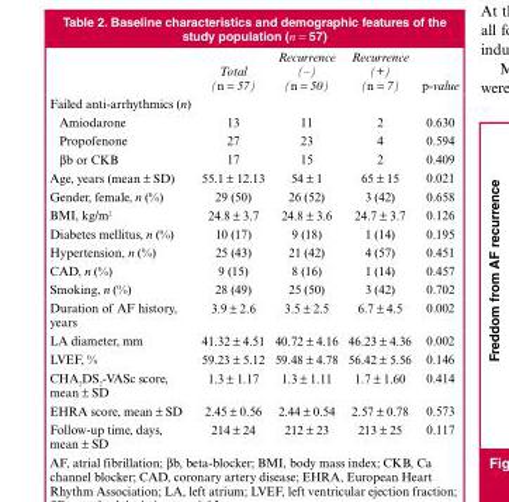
<table><thead><tr><td></td><td>Total (n = 57)</td><td>Recurrence (–) (n = 50)</td><td>Recurrence (+) (n = 7)</td><td>p-value</td></tr></thead><tbody><tr><td colspan="5">Failed anti-arrhythmics (n)</td></tr><tr><td>Amiodarone</td><td>13</td><td>11</td><td>2</td><td>0.630</td></tr><tr><td>Propofenone</td><td>27</td><td>23</td><td>4</td><td>0.594</td></tr><tr><td>βb or CKB</td><td>17</td><td>15</td><td>2</td><td>0.409</td></tr><tr><td>Age, years (mean ± SD)</td><td>55.1 ± 12.13</td><td>54 ± 1</td><td>65 ± 15</td><td>0.021</td></tr><tr><td>Gender, female, n (%)</td><td>29 (50)</td><td>26 (52)</td><td>3 (42)</td><td>0.658</td></tr><tr><td>BMI, kg/m<sup>2</sup></td><td>24.8 ± 3.7</td><td>24.8 ± 3.6</td><td>24.7 ± 3.7</td><td>0.126</td></tr><tr><td>Diabetes mellitus, n (%)</td><td>10 (17)</td><td>9 (18)</td><td>1 (14)</td><td>0.195</td></tr><tr><td>Hypertension, n (%)</td><td>25 (43)</td><td>21 (42)</td><td>4 (57)</td><td>0.451</td></tr><tr><td>CAD, n (%)</td><td>9 (15)</td><td>8 (16)</td><td>1 (14)</td><td>0.457</td></tr><tr><td>Smoking, n (%)</td><td>28 (49)</td><td>25 (50)</td><td>3 (42)</td><td>0.702</td></tr><tr><td>Duration of AF history, years</td><td>3.9 ± 2.6</td><td>3.5 ± 2.5</td><td>6.7 ± 4.5</td><td>0.002</td></tr><tr><td>LA diameter, mm</td><td>41.32 ± 4.51</td><td>40.72 ± 4.16</td><td>46.23 ± 4.36</td><td>0.002</td></tr><tr><td>LVEF, %</td><td>59.23 ± 5.12</td><td>59.48 ± 4.78</td><td>56.42 ± 5.56</td><td>0.146</td></tr><tr><td>CHA2DS2-VASc score, mean ± SD</td><td>1.3 ± 1.17</td><td>1.3 ± 1.11</td><td>1.7 ± 1.60</td><td>0.414</td></tr><tr><td>EHRA score, mean ± SD</td><td>2.45 ± 0.56</td><td>2.44 ± 0.54</td><td>2.57 ± 0.78</td><td>0.573</td></tr><tr><td>Follow-up time, days, mean ± SD</td><td>214 ± 24</td><td>212 ± 23</td><td>213 ± 25</td><td>0.117</td></tr></tbody></table>